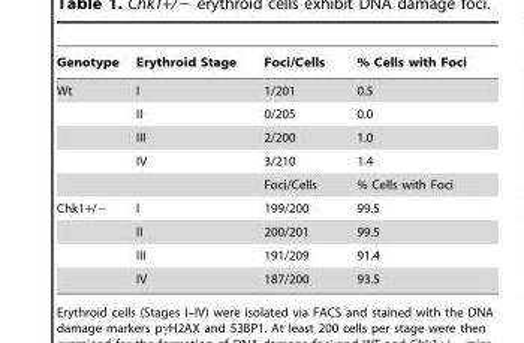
<table><thead><tr><td>Genotype</td><td>Erythroid Stage</td><td>Foci/Cells</td><td>% Cells with Foci</td></tr></thead><tbody><tr><td rowspan="5">Wt</td><td>I</td><td>1/201</td><td>0.5</td></tr><tr><td>II</td><td>0/205</td><td>0.0</td></tr><tr><td>III</td><td>2/200</td><td>1.0</td></tr><tr><td>IV</td><td>3/210</td><td>1.4</td></tr><tr><td></td><td>Foci/Cells</td><td>% Cells with Foci</td></tr><tr><td rowspan="4">Chk1+/−</td><td>I</td><td>199/200</td><td>99.5</td></tr><tr><td>II</td><td>200/201</td><td>99.5</td></tr><tr><td>III</td><td>191/209</td><td>91.4</td></tr><tr><td>IV</td><td>187/200</td><td>93.5</td></tr></tbody></table>